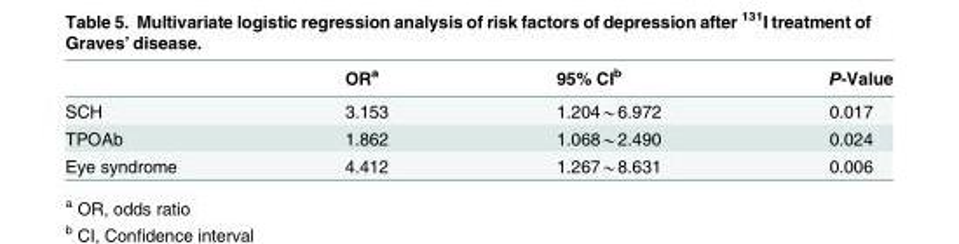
<table><thead><tr><td></td><td>OR<sup>a</sup></td><td>95% CI<sup>b</sup></td><td>P-Value</td></tr></thead><tbody><tr><td>SCH</td><td>3.153</td><td>1.204*6.972</td><td>0.017</td></tr><tr><td>TPOAb</td><td>1.862</td><td>1.068*2.490</td><td>0.024</td></tr><tr><td>Eye syndrome</td><td>4.412</td><td>1.267*8.631</td><td>0.006</td></tr></tbody></table>